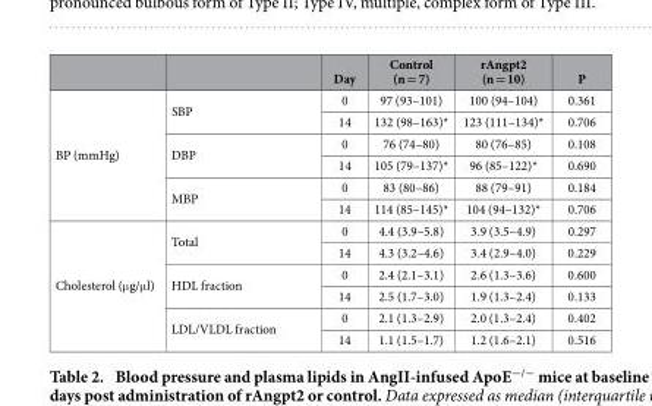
<table><thead><tr><td></td><td></td><td>Day</td><td>Control (n = 7)</td><td>rAngpt2 (n = 10)</td><td>P</td></tr></thead><tbody><tr><td rowspan="6">BP (mmHg)</td><td rowspan="2">SBP</td><td>0</td><td>97 (93–101)</td><td>100 (94–104)</td><td>0.361</td></tr><tr><td>14</td><td>132 (98–163)*</td><td>123 (111–134)*</td><td>0.706</td></tr><tr><td rowspan="2">DBP</td><td>0</td><td>76 (74–80)</td><td>80 (76–85)</td><td>0.108</td></tr><tr><td>14</td><td>105 (79–137)*</td><td>96 (85–122)*</td><td>0.690</td></tr><tr><td rowspan="2">MBP</td><td>0</td><td>83 (80–86)</td><td>88 (79–91)</td><td>0.184</td></tr><tr><td>14</td><td>114 (85–145)*</td><td>104 (94–132)*</td><td>0.706</td></tr><tr><td rowspan="6">Cholesterol (μ g/μ l)</td><td rowspan="2">Total</td><td>0</td><td>4.4 (3.9–5.8)</td><td>3.9 (3.5–4.9)</td><td>0.297</td></tr><tr><td>14</td><td>4.3 (3.2–4.6)</td><td>3.4 (2.9–4.0)</td><td>0.229</td></tr><tr><td rowspan="2">HDL fraction</td><td>0</td><td>2.4 (2.1–3.1)</td><td>2.6 (1.3–3.6)</td><td>0.600</td></tr><tr><td>14</td><td>2.5 (1.7–3.0)</td><td>1.9 (1.3–2.4)</td><td>0.133</td></tr><tr><td rowspan="2">LDL/VLDL fraction</td><td>0</td><td>2.1 (1.3–2.9)</td><td>2.0 (1.3–2.4)</td><td>0.402</td></tr><tr><td>14</td><td>1.1 (1.5–1.7)</td><td>1.2 (1.6–2.1)</td><td>0.516</td></tr></tbody></table>